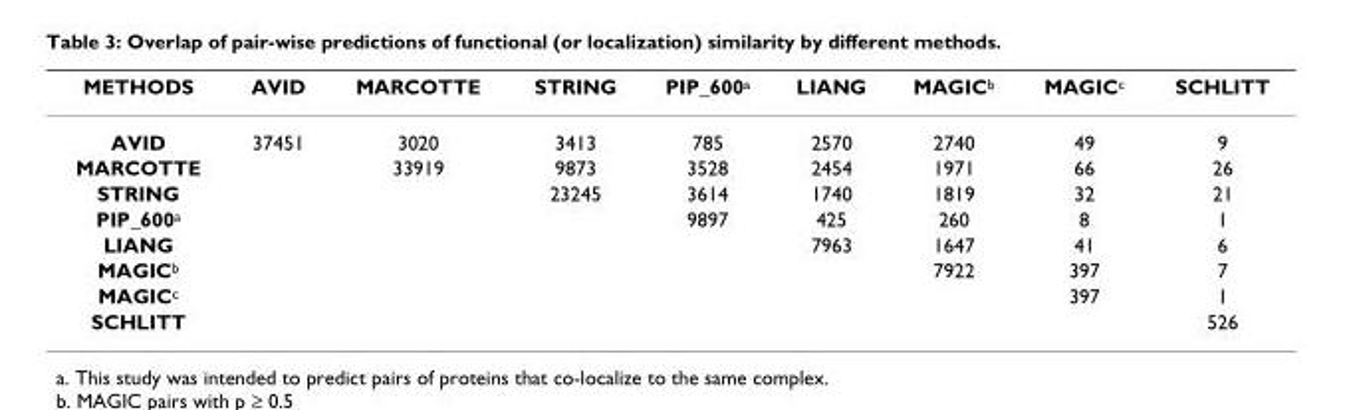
<table><thead><tr><td>METHODS</td><td>AVID</td><td>MARCOTTE</td><td>STRING</td><td>PIP_600a</td><td>LIANG</td><td>MAGICb</td><td>MAGICc</td><td>SCHLITT</td></tr></thead><tbody><tr><td>AVID</td><td>37451</td><td>3020</td><td>3413</td><td>785</td><td>2570</td><td>2740</td><td>49</td><td>9</td></tr><tr><td>MARCOTTE</td><td></td><td>33919</td><td>9873</td><td>3528</td><td>2454</td><td>1971</td><td>66</td><td>26</td></tr><tr><td>STRING</td><td></td><td></td><td>23245</td><td>3614</td><td>1740</td><td>1819</td><td>32</td><td>21</td></tr><tr><td>PIP_600a</td><td></td><td></td><td></td><td>9897</td><td>425</td><td>260</td><td>8</td><td>1</td></tr><tr><td>LIANG</td><td></td><td></td><td></td><td></td><td>7963</td><td>1647</td><td>41</td><td>6</td></tr><tr><td>MAGICb</td><td></td><td></td><td></td><td></td><td></td><td>7922</td><td>397</td><td>7</td></tr><tr><td>MAGICc</td><td></td><td></td><td></td><td></td><td></td><td></td><td>397</td><td>1</td></tr><tr><td>SCHLITT</td><td></td><td></td><td></td><td></td><td></td><td></td><td></td><td>526</td></tr></tbody></table>